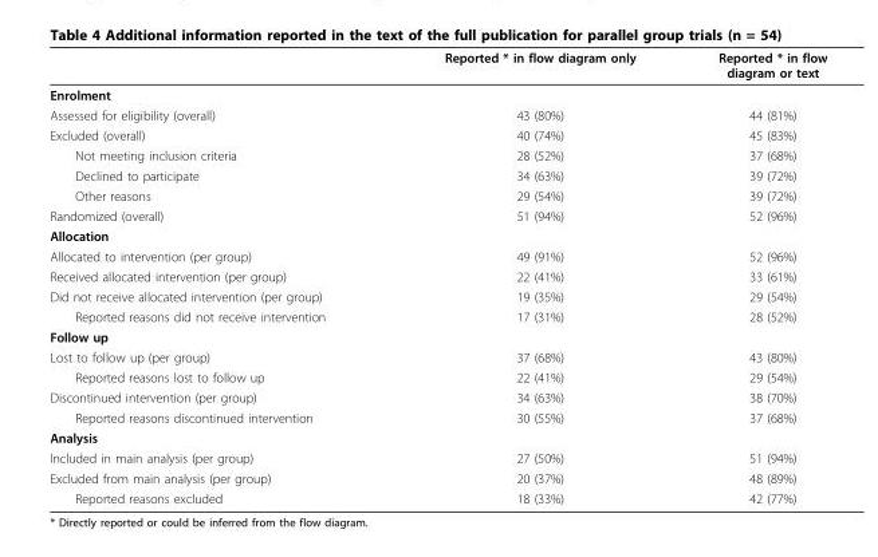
<table><thead><tr><td></td><td>Reported * in flow diagram only</td><td>Reported * in flow diagram or text</td></tr></thead><tbody><tr><td colspan="3">Enrolment</td></tr><tr><td>Assessed for eligibility (overall)</td><td>43 (80%)</td><td>44 (81%)</td></tr><tr><td>Excluded (overall)</td><td>40 (74%)</td><td>45 (83%)</td></tr><tr><td>Not meeting inclusion criteria</td><td>28 (52%)</td><td>37 (68%)</td></tr><tr><td>Declined to participate</td><td>34 (63%)</td><td>39 (72%)</td></tr><tr><td>Other reasons</td><td>29 (54%)</td><td>39 (72%)</td></tr><tr><td>Randomized (overall)</td><td>51 (94%)</td><td>52 (96%)</td></tr><tr><td colspan="3">Allocation</td></tr><tr><td>Allocated to intervention (per group)</td><td>49 (91%)</td><td>52 (96%)</td></tr><tr><td>Received allocated intervention (per group)</td><td>22 (41%)</td><td>33 (61%)</td></tr><tr><td>Did not receive allocated intervention (per group)</td><td>19 (35%)</td><td>29 (54%)</td></tr><tr><td>Reported reasons did not receive intervention</td><td>17 (31%)</td><td>28 (52%)</td></tr><tr><td colspan="3">Follow up</td></tr><tr><td>Lost to follow up (per group)</td><td>37 (68%)</td><td>43 (80%)</td></tr><tr><td>Reported reasons lost to follow up</td><td>22 (41%)</td><td>29 (54%)</td></tr><tr><td>Discontinued intervention (per group)</td><td>34 (63%)</td><td>38 (70%)</td></tr><tr><td>Reported reasons discontinued intervention</td><td>30 (55%)</td><td>37 (68%)</td></tr><tr><td colspan="3">Analysis</td></tr><tr><td>Included in main analysis (per group)</td><td>27 (50%)</td><td>51 (94%)</td></tr><tr><td>Excluded from main analysis (per group)</td><td>20 (37%)</td><td>48 (89%)</td></tr><tr><td>Reported reasons excluded</td><td>18 (33%)</td><td>42 (77%)</td></tr></tbody></table>